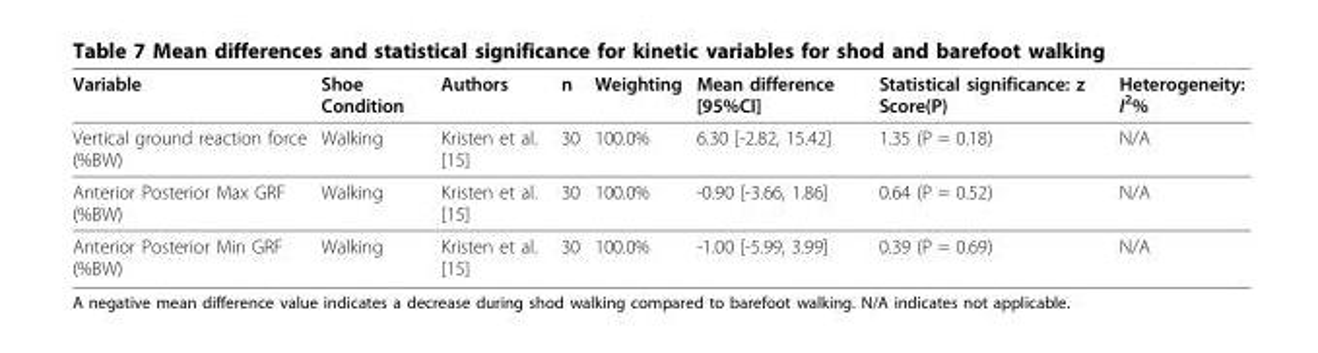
<table><thead><tr><td>Variable</td><td>Shoe Condition</td><td>Authors</td><td>n</td><td>Weighting</td><td>Mean difference [95%CI]</td><td>Statistical significance: z Score(P)</td><td>Heterogeneity: I<sup>2</sup>%</td></tr></thead><tbody><tr><td>Vertical ground reaction force (%BW)</td><td>Walking</td><td>Kristen et al. [15]</td><td>30</td><td>100.0%</td><td>6.30 [-2.82, 15.42]</td><td>1.35 (P = 0.18)</td><td>N/A</td></tr><tr><td>Anterior Posterior Max GRF (%BW)</td><td>Walking</td><td>Kristen et al. [15]</td><td>30</td><td>100.0%</td><td>-0.90 [-3.66, 1.86]</td><td>0.64 (P = 0.52)</td><td>N/A</td></tr><tr><td>Anterior Posterior Min GRF (%BW)</td><td>Walking</td><td>Kristen et al. [15]</td><td>30</td><td>100.0%</td><td>-1.00 [-5.99, 3.99]</td><td>0.39 (P = 0.69)</td><td>N/A</td></tr></tbody></table>